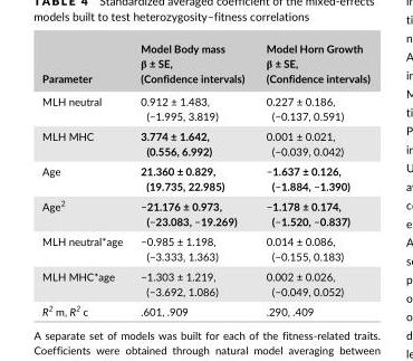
<table><thead><tr><td>Parameter</td><td>Model Body mass β ± SE, (Confidence intervals)</td><td>Model Horn Growth β ± SE, (Confidence intervals)</td></tr></thead><tbody><tr><td>MLH neutral</td><td>0.912 ± 1.483, (−1.995, 3.819)</td><td>0.227 ± 0.186, (−0.137, 0.591)</td></tr><tr><td>MLH MHC</td><td>3.774 ± 1.642, (0.556, 6.992)</td><td>0.001 ± 0.021, (−0.039, 0.042)</td></tr><tr><td>Age</td><td>21.360 ± 0.829, (19.735, 22.985)</td><td>−1.637 ± 0.126, (−1.884, −1.390)</td></tr><tr><td>Age<sup>2</sup></td><td>−21.176 ± 0.973, (−23.083, −19.269)</td><td>−1.178 ± 0.174, (−1.520, −0.837)</td></tr><tr><td>MLH neutral*age</td><td>−0.985 ± 1.198, (−3.333, 1.363)</td><td>0.014 ± 0.086, (−0.155, 0.183)</td></tr><tr><td>MLH MHC*age</td><td>−1.303 ± 1.219, (−3.692, 1.086)</td><td>0.002 ± 0.026, (−0.049, 0.052)</td></tr><tr><td>R<sup>2</sup> m, R<sup>2</sup> c</td><td>.601, .909</td><td>.290, .409</td></tr></tbody></table>